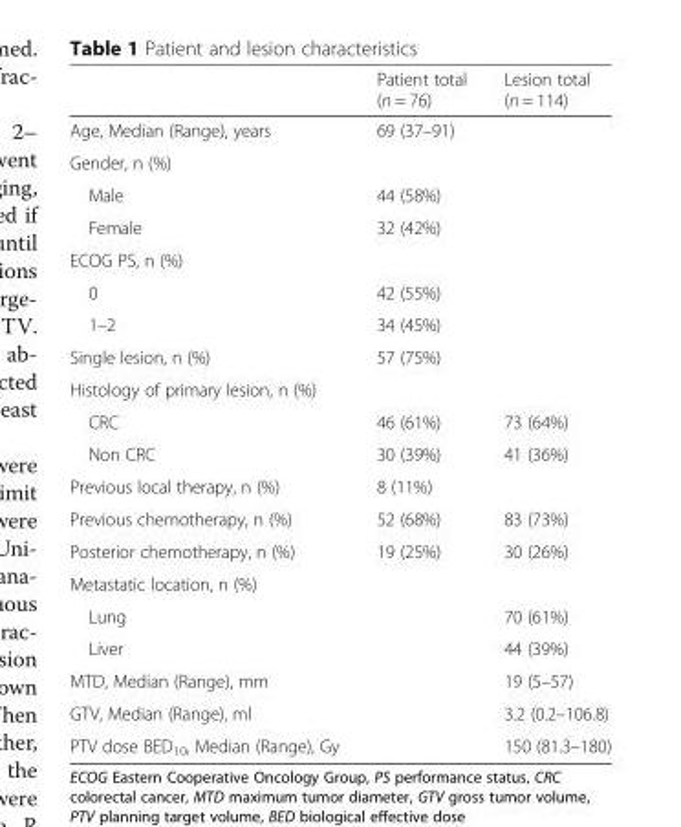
<table><thead><tr><td></td><td>Patient total (n = 76)</td><td>Lesion total (n = 114)</td></tr></thead><tbody><tr><td>Age, Median (Range), years</td><td>69 (37–91)</td><td></td></tr><tr><td colspan="3">Gender, n (%)</td></tr><tr><td>Male</td><td>44 (58%)</td><td></td></tr><tr><td>Female</td><td>32 (42%)</td><td></td></tr><tr><td colspan="3">ECOG PS, n (%)</td></tr><tr><td>0</td><td>42 (55%)</td><td></td></tr><tr><td>1–2</td><td>34 (45%)</td><td></td></tr><tr><td>Single lesion, n (%)</td><td>57 (75%)</td><td></td></tr><tr><td colspan="3">Histology of primary lesion, n (%)</td></tr><tr><td>CRC</td><td>46 (61%)</td><td>73 (64%)</td></tr><tr><td>Non CRC</td><td>30 (39%)</td><td>41 (36%)</td></tr><tr><td>Previous local therapy, n (%)</td><td>8 (11%)</td><td></td></tr><tr><td>Previous chemotherapy, n (%)</td><td>52 (68%)</td><td>83 (73%)</td></tr><tr><td>Posterior chemotherapy, n (%)</td><td>19 (25%)</td><td>30 (26%)</td></tr><tr><td colspan="3">Metastatic location, n (%)</td></tr><tr><td>Lung</td><td></td><td>70 (61%)</td></tr><tr><td>Liver</td><td></td><td>44 (39%)</td></tr><tr><td>MTD, Median (Range), mm</td><td></td><td>19 (5–57)</td></tr><tr><td>GTV, Median (Range), ml</td><td></td><td>3.2 (0.2–106.8)</td></tr><tr><td>PTV dose BED<sub>10</sub>, Median (Range), Gy</td><td></td><td>150 (81.3–180)</td></tr></tbody></table>